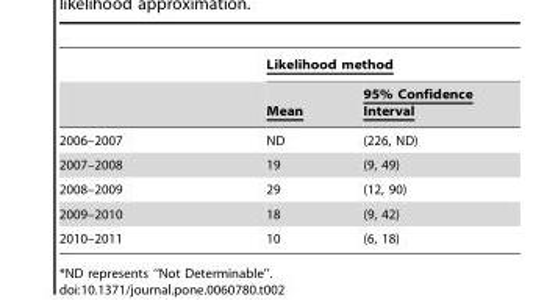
<table><thead><tr><td rowspan="2"></td><td colspan="2">Likelihood method</td></tr><tr><td>Mean</td><td>95% Confidence Interval</td></tr></thead><tbody><tr><td>2006–2007</td><td>ND</td><td>(226, ND)</td></tr><tr><td>2007–2008</td><td>19</td><td>(9, 49)</td></tr><tr><td>2008–2009</td><td>29</td><td>(12, 90)</td></tr><tr><td>2009–2010</td><td>18</td><td>(9, 42)</td></tr><tr><td>2010–2011</td><td>10</td><td>(6, 18)</td></tr></tbody></table>